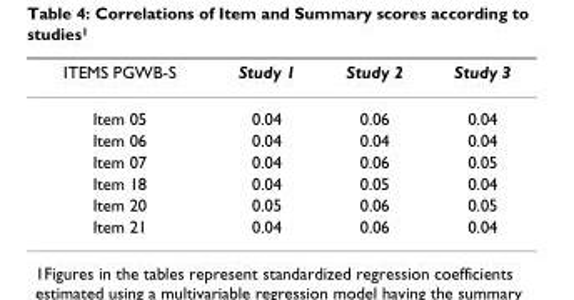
<table><thead><tr><td>ITEMS PGWB-S</td><td>Study 1</td><td>Study 2</td><td>Study 3</td></tr></thead><tbody><tr><td>Item 05</td><td>0.04</td><td>0.06</td><td>0.04</td></tr><tr><td>Item 06</td><td>0.04</td><td>0.04</td><td>0.04</td></tr><tr><td>Item 07</td><td>0.04</td><td>0.06</td><td>0.05</td></tr><tr><td>Item 18</td><td>0.04</td><td>0.05</td><td>0.04</td></tr><tr><td>Item 20</td><td>0.05</td><td>0.06</td><td>0.05</td></tr><tr><td>Item 21</td><td>0.04</td><td>0.06</td><td>0.04</td></tr></tbody></table>